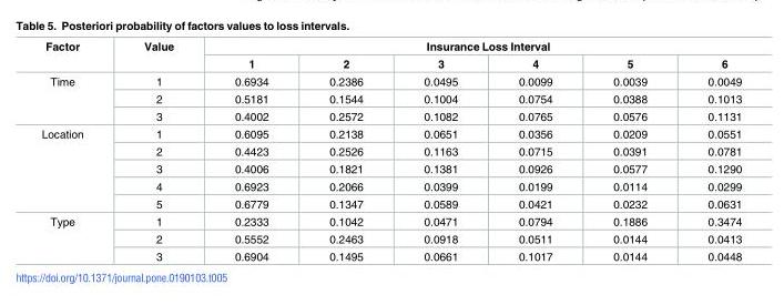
<table><thead><tr><td rowspan="2">Factor</td><td rowspan="2">Value</td><td colspan="6">Insurance Loss Interval</td></tr><tr><td>1</td><td>2</td><td>3</td><td>4</td><td>5</td><td>6</td></tr></thead><tbody><tr><td rowspan="3">Time</td><td>1</td><td>0.6934</td><td>0.2386</td><td>0.0495</td><td>0.0099</td><td>0.0039</td><td>0.0049</td></tr><tr><td>2</td><td>0.5181</td><td>0.1544</td><td>0.1004</td><td>0.0754</td><td>0.0388</td><td>0.1013</td></tr><tr><td>3</td><td>0.4002</td><td>0.2572</td><td>0.1082</td><td>0.0765</td><td>0.0576</td><td>0.1131</td></tr><tr><td rowspan="5">Location</td><td>1</td><td>0.6095</td><td>0.2138</td><td>0.0651</td><td>0.0356</td><td>0.0209</td><td>0.0551</td></tr><tr><td>2</td><td>0.4423</td><td>0.2526</td><td>0.1163</td><td>0.0715</td><td>0.0391</td><td>0.0781</td></tr><tr><td>3</td><td>0.4006</td><td>0.1821</td><td>0.1381</td><td>0.0926</td><td>0.0577</td><td>0.1290</td></tr><tr><td>4</td><td>0.6923</td><td>0.2066</td><td>0.0399</td><td>0.0199</td><td>0.0114</td><td>0.0299</td></tr><tr><td>5</td><td>0.6779</td><td>0.1347</td><td>0.0589</td><td>0.0421</td><td>0.0232</td><td>0.0631</td></tr><tr><td rowspan="3">Type</td><td>1</td><td>0.2333</td><td>0.1042</td><td>0.0471</td><td>0.0794</td><td>0.1886</td><td>0.3474</td></tr><tr><td>2</td><td>0.5552</td><td>0.2463</td><td>0.0918</td><td>0.0511</td><td>0.0144</td><td>0.0413</td></tr><tr><td>3</td><td>0.6904</td><td>0.1495</td><td>0.0661</td><td>0.1017</td><td>0.0144</td><td>0.0448</td></tr></tbody></table>